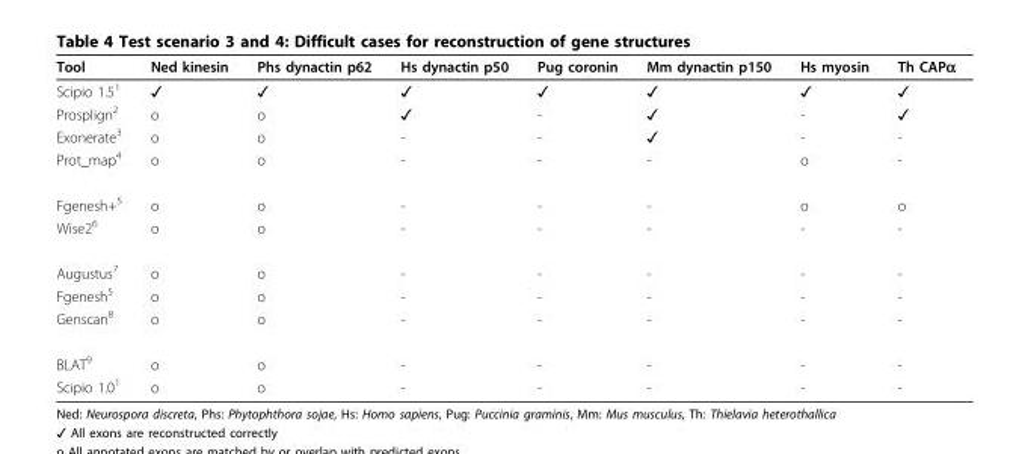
<table><thead><tr><td>Tool</td><td>Ned kinesin</td><td>Phs dynactin p62</td><td>Hs dynactin p50</td><td>Pug coronin</td><td>Mm dynactin p150</td><td>Hs myosin</td><td>Th CAPα</td></tr></thead><tbody><tr><td>Scipio 1.5<sup>1</sup></td><td>✓</td><td>✓</td><td>✓</td><td>✓</td><td>✓</td><td>✓</td><td>✓</td></tr><tr><td>Prosplign<sup>2</sup></td><td>o</td><td>o</td><td>✓</td><td>-</td><td>✓</td><td>-</td><td>✓</td></tr><tr><td>Exonerate<sup>3</sup></td><td>o</td><td>o</td><td>-</td><td>-</td><td>✓</td><td>-</td><td>-</td></tr><tr><td>Prot_map<sup>4</sup></td><td>o</td><td>o</td><td>-</td><td>-</td><td>-</td><td>o</td><td>-</td></tr><tr><td>Fgenesh+<sup>5</sup></td><td>o</td><td>o</td><td>-</td><td>-</td><td>-</td><td>o</td><td>o</td></tr><tr><td>Wise2<sup>6</sup></td><td>o</td><td>o</td><td>-</td><td>-</td><td>-</td><td>-</td><td>-</td></tr><tr><td>Augustus<sup>7</sup></td><td>o</td><td>o</td><td>-</td><td>-</td><td>-</td><td>-</td><td>-</td></tr><tr><td>Fgenesh<sup>5</sup></td><td>o</td><td>o</td><td>-</td><td>-</td><td>-</td><td>-</td><td>-</td></tr><tr><td>Genscan<sup>8</sup></td><td>o</td><td>o</td><td>-</td><td>-</td><td>-</td><td>-</td><td>-</td></tr><tr><td>BLAT<sup>9</sup></td><td>o</td><td>o</td><td>-</td><td>-</td><td>-</td><td>-</td><td>-</td></tr><tr><td>Scipio 1.0<sup>1</sup></td><td>o</td><td>o</td><td>-</td><td>-</td><td>-</td><td>-</td><td>-</td></tr></tbody></table>